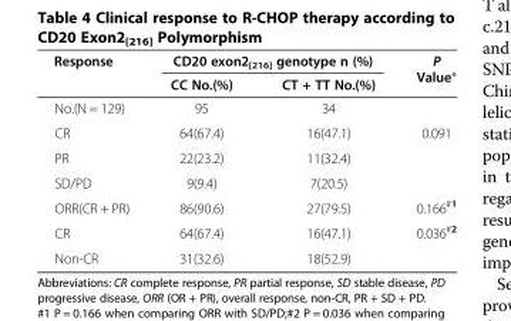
<table><thead><tr><td rowspan="2">Response</td><td colspan="2">CD20 exon2<sub>[216]</sub> genotype n (%)</td><td rowspan="2">P Value*</td></tr><tr><td>CC No.(%)</td><td>CT + TT No.(%)</td></tr></thead><tbody><tr><td>No.(N = 129)</td><td>95</td><td>34</td><td></td></tr><tr><td>CR</td><td>64(67.4)</td><td>16(47.1)</td><td>0.091</td></tr><tr><td>PR</td><td>22(23.2)</td><td>11(32.4)</td><td></td></tr><tr><td>SD/PD</td><td>9(9.4)</td><td>7(20.5)</td><td></td></tr><tr><td>ORR(CR + PR)</td><td>86(90.6)</td><td>27(79.5)</td><td>0.166<sup>#1</sup></td></tr><tr><td>CR</td><td>64(67.4)</td><td>16(47.1)</td><td>0.036<sup>#2</sup></td></tr><tr><td>Non-CR</td><td>31(32.6)</td><td>18(52.9)</td><td></td></tr></tbody></table>